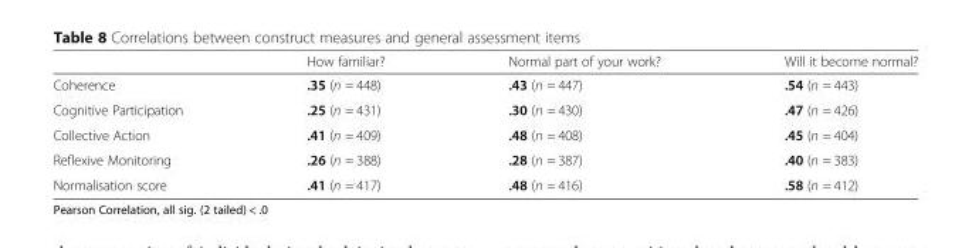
<table><thead><tr><td></td><td>How familiar?</td><td>Normal part of your work?</td><td>Will it become normal?</td></tr></thead><tbody><tr><td>Coherence</td><td>.35 (n = 448)</td><td>.43 (n = 447)</td><td>.54 (n = 443)</td></tr><tr><td>Cognitive Participation</td><td>.25 (n = 431)</td><td>.30 (n = 430)</td><td>.47 (n = 426)</td></tr><tr><td>Collective Action</td><td>.41 (n = 409)</td><td>.48 (n = 408)</td><td>.45 (n = 404)</td></tr><tr><td>Reflexive Monitoring</td><td>.26 (n = 388)</td><td>.28 (n = 387)</td><td>.40 (n = 383)</td></tr><tr><td>Normalisation score</td><td>.41 (n = 417)</td><td>.48 (n = 416)</td><td>.58 (n = 412)</td></tr></tbody></table>